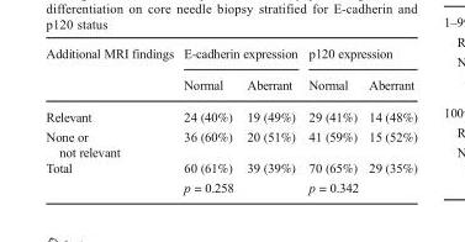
<table><thead><tr><td rowspan="2">Additional MRI findings</td><td colspan="2">E-cadherin expression</td><td colspan="2">p120 expression</td></tr><tr><td>Normal</td><td>Aberrant</td><td>Normal</td><td>Aberrant</td></tr></thead><tbody><tr><td>Relevant</td><td>24 (40%)</td><td>19 (49%)</td><td>29 (41%)</td><td>14 (48%)</td></tr><tr><td>None or not relevant</td><td>36 (60%)</td><td>20 (51%)</td><td>41 (59%)</td><td>15 (52%)</td></tr><tr><td rowspan="2">Total</td><td>60 (61%)</td><td>39 (39%)</td><td>70 (65%)</td><td>29 (35%)</td></tr><tr><td>p = 0.258</td><td></td><td>p = 0.342</td><td></td></tr></tbody></table>